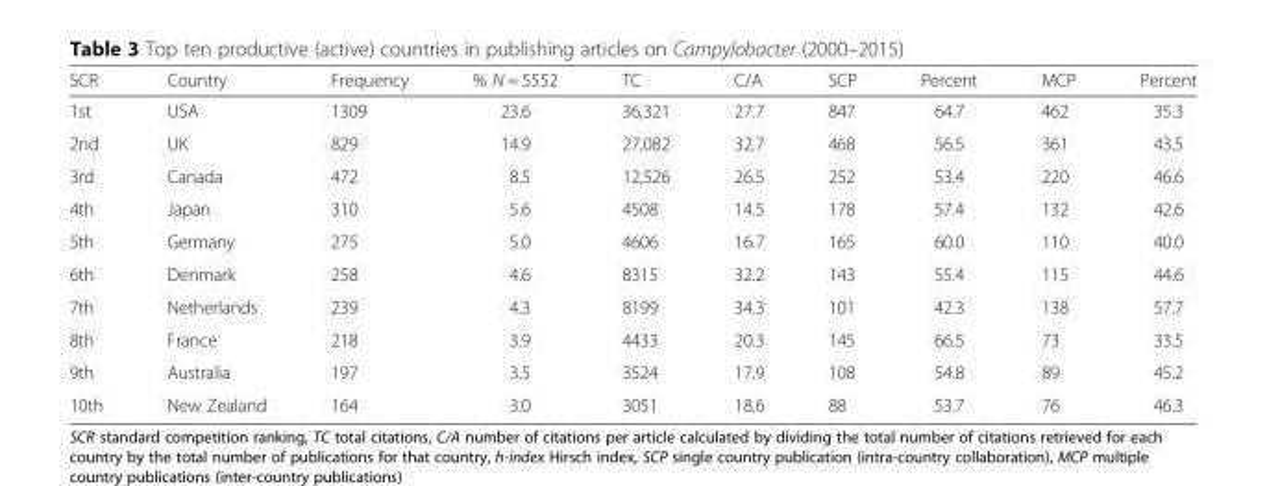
<table><thead><tr><td>SCR</td><td>Country</td><td>Frequency</td><td>% N = 5552</td><td>TC</td><td>C/A</td><td>SCP</td><td>Percent</td><td>MCP</td><td>Percent</td></tr></thead><tbody><tr><td>1st</td><td>USA</td><td>1309</td><td>23.6</td><td>36,321</td><td>27.7</td><td>847</td><td>64.7</td><td>462</td><td>35.3</td></tr><tr><td>2nd</td><td>UK</td><td>829</td><td>14.9</td><td>27,082</td><td>32.7</td><td>468</td><td>56.5</td><td>361</td><td>43.5</td></tr><tr><td>3rd</td><td>Canada</td><td>472</td><td>8.5</td><td>12,526</td><td>26.5</td><td>252</td><td>53.4</td><td>220</td><td>46.6</td></tr><tr><td>4th</td><td>Japan</td><td>310</td><td>5.6</td><td>4508</td><td>14.5</td><td>178</td><td>57.4</td><td>132</td><td>42.6</td></tr><tr><td>5th</td><td>Germany</td><td>275</td><td>5.0</td><td>4606</td><td>16.7</td><td>165</td><td>60.0</td><td>110</td><td>40.0</td></tr><tr><td>6th</td><td>Denmark</td><td>258</td><td>4.6</td><td>8315</td><td>32.2</td><td>143</td><td>55.4</td><td>115</td><td>44.6</td></tr><tr><td>7th</td><td>Netherlands</td><td>239</td><td>4.3</td><td>8199</td><td>34.3</td><td>101</td><td>42.3</td><td>138</td><td>57.7</td></tr><tr><td>8th</td><td>France</td><td>218</td><td>3.9</td><td>4433</td><td>20.3</td><td>145</td><td>66.5</td><td>73</td><td>33.5</td></tr><tr><td>9th</td><td>Australia</td><td>197</td><td>3.5</td><td>3524</td><td>17.9</td><td>108</td><td>54.8</td><td>89</td><td>45.2</td></tr><tr><td>10th</td><td>New Zealand</td><td>164</td><td>3.0</td><td>3051</td><td>18.6</td><td>88</td><td>53.7</td><td>76</td><td>46.3</td></tr></tbody></table>